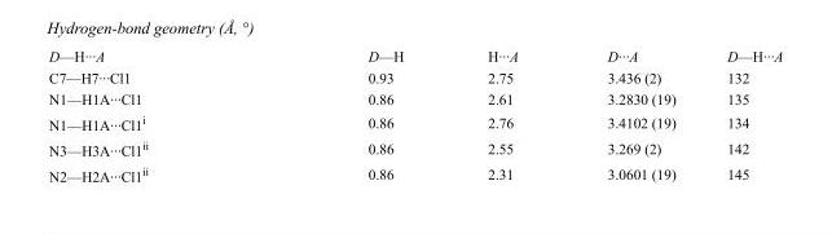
<table><tbody><tr><td>D—H···A</td><td>D—H</td><td>H···A</td><td>D···A</td><td>D—H···A</td></tr><tr><td>C7—H7···Cl1</td><td>0.93</td><td>2.75</td><td>3.436 (2)</td><td>132</td></tr><tr><td>N1—H1A···Cl1</td><td>0.86</td><td>2.61</td><td>3.2830 (19)</td><td>135</td></tr><tr><td>N1—H1A···Cl1<sup>i</sup></td><td>0.86</td><td>2.76</td><td>3.4102 (19)</td><td>134</td></tr><tr><td>N3—H3A···Cl1<sup>ii</sup></td><td>0.86</td><td>2.55</td><td>3.269 (2)</td><td>142</td></tr><tr><td>N2—H2A···Cl1<sup>ii</sup></td><td>0.86</td><td>2.31</td><td>3.0601 (19)</td><td>145</td></tr></tbody></table>